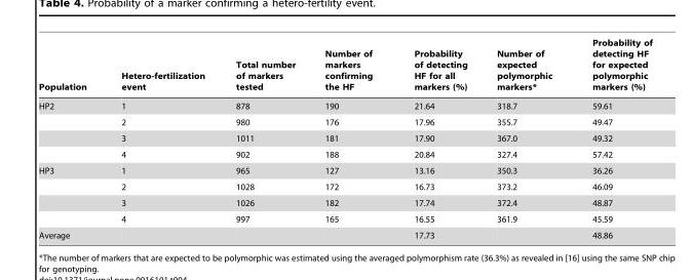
<table><thead><tr><td>Population</td><td>Hetero-fertilization event</td><td>Total number of markers tested</td><td>Number of markers confirming the HF</td><td>Probability of detecting HF for all markers (%)</td><td>Number of expected polymorphic markers*</td><td>Probability of detecting HF for expected polymorphic markers (%)</td></tr></thead><tbody><tr><td rowspan="4">HP2</td><td>1</td><td>878</td><td>190</td><td>21.64</td><td>318.7</td><td>59.61</td></tr><tr><td>2</td><td>980</td><td>176</td><td>17.96</td><td>355.7</td><td>49.47</td></tr><tr><td>3</td><td>1011</td><td>181</td><td>17.90</td><td>367.0</td><td>49.32</td></tr><tr><td>4</td><td>902</td><td>188</td><td>20.84</td><td>327.4</td><td>57.42</td></tr><tr><td rowspan="4">HP3</td><td>1</td><td>965</td><td>127</td><td>13.16</td><td>350.3</td><td>36.26</td></tr><tr><td>2</td><td>1028</td><td>172</td><td>16.73</td><td>373.2</td><td>46.09</td></tr><tr><td>3</td><td>1026</td><td>182</td><td>17.74</td><td>372.4</td><td>48.87</td></tr><tr><td>4</td><td>997</td><td>165</td><td>16.55</td><td>361.9</td><td>45.59</td></tr><tr><td>Average</td><td></td><td></td><td></td><td>17.73</td><td></td><td>48.86</td></tr></tbody></table>